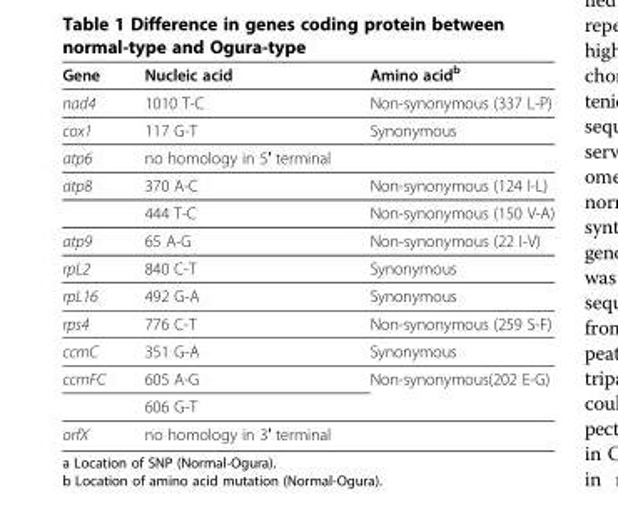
<table><thead><tr><td>Gene</td><td>Nucleic acid</td><td>Amino acid<sup>b</sup></td></tr></thead><tbody><tr><td>nad4</td><td>1010 T-C</td><td>Non-synonymous (337 L-P)</td></tr><tr><td>cox1</td><td>117 G-T</td><td>Synonymous</td></tr><tr><td>atp6</td><td>no homology in 5′ terminal</td><td></td></tr><tr><td rowspan="2">atp8</td><td>370 A-C</td><td>Non-synonymous (124 I-L)</td></tr><tr><td>444 T-C</td><td>Non-synonymous (150 V-A)</td></tr><tr><td>atp9</td><td>65 A-G</td><td>Non-synonymous (22 I-V)</td></tr><tr><td>rpL2</td><td>840 C-T</td><td>Synonymous</td></tr><tr><td>rpL16</td><td>492 G-A</td><td>Synonymous</td></tr><tr><td>rps4</td><td>776 C-T</td><td>Non-synonymous (259 S-F)</td></tr><tr><td>ccmC</td><td>351 G-A</td><td>Synonymous</td></tr><tr><td rowspan="2">ccmFC</td><td>605 A-G</td><td rowspan="2">Non-synonymous(202 E-G)</td></tr><tr><td>606 G-T</td></tr><tr><td>orfX</td><td>no homology in 3′ terminal</td><td></td></tr></tbody></table>